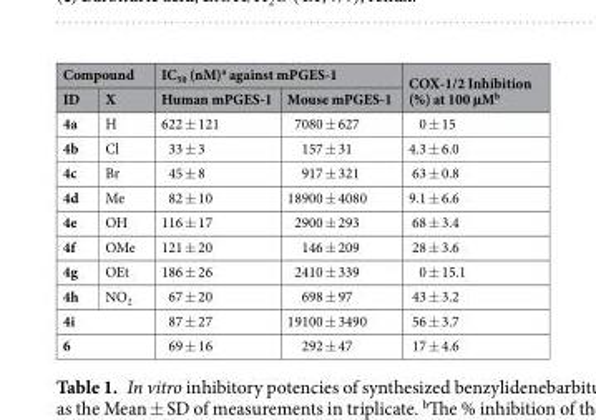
<table><thead><tr><td colspan="2">Compound</td><td colspan="2">IC<sub>50</sub> (nM)<sup>a</sup> against mPGES-1</td><td rowspan="2">COX-1/2 Inhibition (%) at 100 µM<sup>b</sup></td></tr><tr><td>ID</td><td>X</td><td>Human mPGES-1</td><td>Mouse mPGES-1</td></tr></thead><tbody><tr><td>4a</td><td>H</td><td>622 ± 121</td><td>7080 ± 627</td><td>0 ± 15</td></tr><tr><td>4b</td><td>Cl</td><td>33 ± 3</td><td>157 ± 31</td><td>4.3 ± 6.0</td></tr><tr><td>4c</td><td>Br</td><td>45 ± 8</td><td>917 ± 321</td><td>63 ± 0.8</td></tr><tr><td>4d</td><td>Me</td><td>82 ± 10</td><td>18900 ± 4080</td><td>9.1 ± 6.6</td></tr><tr><td>4e</td><td>OH</td><td>116 ± 17</td><td>2900 ± 293</td><td>68 ± 3.4</td></tr><tr><td>4f</td><td>OMe</td><td>121 ± 20</td><td>146 ± 209</td><td>28 ± 3.6</td></tr><tr><td>4g</td><td>OEt</td><td>186 ± 26</td><td>2410 ± 339</td><td>0 ± 15.1</td></tr><tr><td>4h</td><td>NO<sub>2</sub></td><td>67 ± 20</td><td>698 ± 97</td><td>43 ± 3.2</td></tr><tr><td colspan="2">4i</td><td>87 ± 27</td><td>19100 ± 3490</td><td>56 ± 3.7</td></tr><tr><td colspan="2">6</td><td>69 ± 16</td><td>292 ± 47</td><td>17 ± 4.6</td></tr></tbody></table>